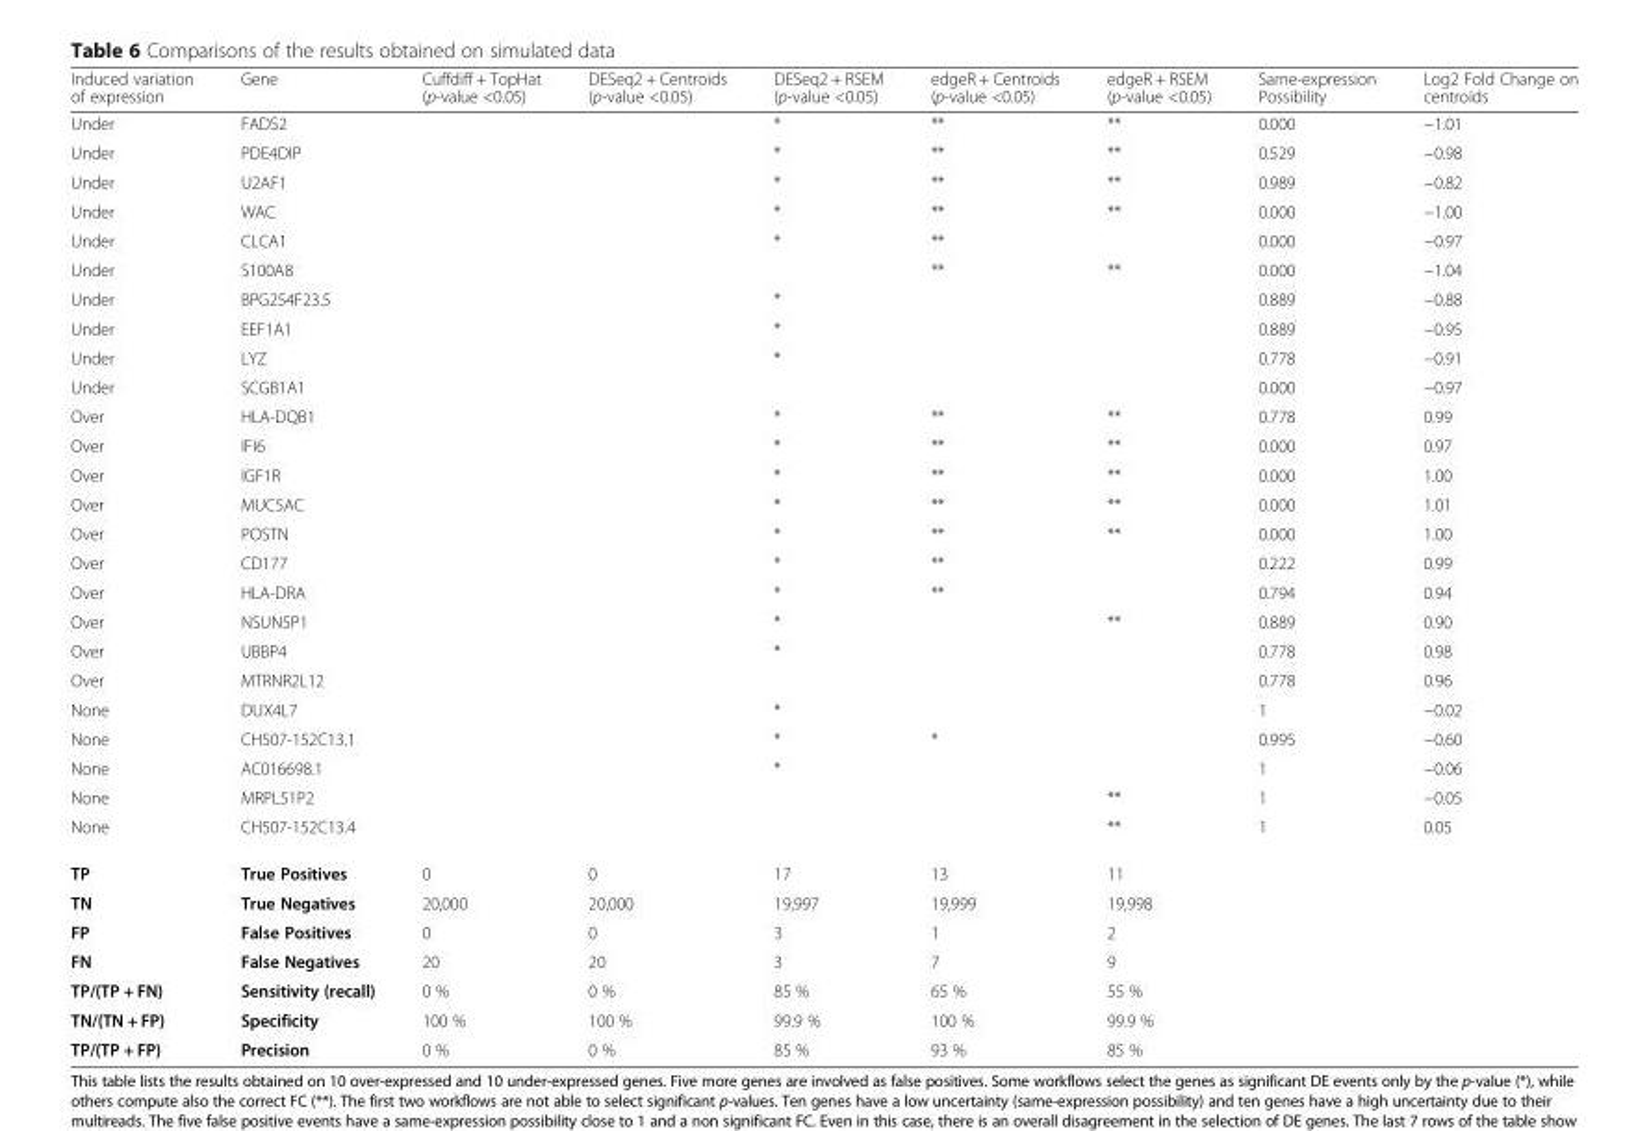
<table><thead><tr><td>Induced variation of expression</td><td>Gene</td><td>Cuffdiff + TopHat (p-value &lt;0.05)</td><td>DESeq2 + Centroids (p-value &lt;0.05)</td><td>DESeq2 + RSEM (p-value &lt;0.05)</td><td>edgeR + Centroids (p-value &lt;0.05)</td><td>edgeR + RSEM (p-value &lt;0.05)</td><td>Same-expression Possibility</td><td>Log2 Fold Change on centroids</td></tr></thead><tbody><tr><td>Under</td><td>FADS2</td><td></td><td></td><td>*</td><td>**</td><td>**</td><td>0.000</td><td>−1.01</td></tr><tr><td>Under</td><td>PDE4DIP</td><td></td><td></td><td>*</td><td>**</td><td>**</td><td>0.529</td><td>−0.98</td></tr><tr><td>Under</td><td>U2AF1</td><td></td><td></td><td>*</td><td>**</td><td>**</td><td>0.989</td><td>−0.82</td></tr><tr><td>Under</td><td>WAC</td><td></td><td></td><td>*</td><td>**</td><td>**</td><td>0.000</td><td>−1.00</td></tr><tr><td>Under</td><td>CLCA1</td><td></td><td></td><td>*</td><td>**</td><td></td><td>0.000</td><td>−0.97</td></tr><tr><td>Under</td><td>S100A8</td><td></td><td></td><td></td><td>**</td><td>**</td><td>0.000</td><td>−1.04</td></tr><tr><td>Under</td><td>BPG254F23.5</td><td></td><td></td><td>*</td><td></td><td></td><td>0.889</td><td>−0.88</td></tr><tr><td>Under</td><td>EEF1A1</td><td></td><td></td><td>*</td><td></td><td></td><td>0.889</td><td>−0.95</td></tr><tr><td>Under</td><td>LYZ</td><td></td><td></td><td>*</td><td></td><td></td><td>0.778</td><td>−0.91</td></tr><tr><td>Under</td><td>SCGB1A1</td><td></td><td></td><td></td><td></td><td></td><td>0.000</td><td>−0.97</td></tr><tr><td>Over</td><td>HLA-DQB1</td><td></td><td></td><td>*</td><td>**</td><td>**</td><td>0.778</td><td>0.99</td></tr><tr><td>Over</td><td>IFI6</td><td></td><td></td><td>*</td><td>**</td><td>**</td><td>0.000</td><td>0.97</td></tr><tr><td>Over</td><td>IGF1R</td><td></td><td></td><td>*</td><td>**</td><td>**</td><td>0.000</td><td>1.00</td></tr><tr><td>Over</td><td>MUC5AC</td><td></td><td></td><td>*</td><td>**</td><td>**</td><td>0.000</td><td>1.01</td></tr><tr><td>Over</td><td>POSTN</td><td></td><td></td><td>*</td><td>**</td><td>**</td><td>0.000</td><td>1.00</td></tr><tr><td>Over</td><td>CD177</td><td></td><td></td><td>*</td><td>**</td><td></td><td>0.222</td><td>0.99</td></tr><tr><td>Over</td><td>HLA-DRA</td><td></td><td></td><td>*</td><td>**</td><td></td><td>0.794</td><td>0.94</td></tr><tr><td>Over</td><td>NSUN5P1</td><td></td><td></td><td>*</td><td></td><td>**</td><td>0.889</td><td>0.90</td></tr><tr><td>Over</td><td>UBBP4</td><td></td><td></td><td>*</td><td></td><td></td><td>0.778</td><td>0.98</td></tr><tr><td>Over</td><td>MTRNR2L12</td><td></td><td></td><td></td><td></td><td></td><td>0.778</td><td>0.96</td></tr><tr><td>None</td><td>DUX4L7</td><td></td><td></td><td>*</td><td></td><td></td><td>1</td><td>−0.02</td></tr><tr><td>None</td><td>CH507-152C13.1</td><td></td><td></td><td>*</td><td>*</td><td></td><td>0.995</td><td>−0.60</td></tr><tr><td>None</td><td>AC016698.1</td><td></td><td></td><td>*</td><td></td><td></td><td>1</td><td>−0.06</td></tr><tr><td>None</td><td>MRPL51P2</td><td></td><td></td><td></td><td></td><td>**</td><td>1</td><td>−0.05</td></tr><tr><td>None</td><td>CH507-152C13.4</td><td></td><td></td><td></td><td></td><td>**</td><td>1</td><td>0.05</td></tr><tr><td>TP</td><td>True Positives</td><td>0</td><td>0</td><td>17</td><td>13</td><td>11</td><td></td><td></td></tr><tr><td>TN</td><td>True Negatives</td><td>20,000</td><td>20,000</td><td>19,997</td><td>19,999</td><td>19,998</td><td></td><td></td></tr><tr><td>FP</td><td>False Positives</td><td>0</td><td>0</td><td>3</td><td>1</td><td>2</td><td></td><td></td></tr><tr><td>FN</td><td>False Negatives</td><td>20</td><td>20</td><td>3</td><td>7</td><td>9</td><td></td><td></td></tr><tr><td>TP/(TP + FN)</td><td>Sensitivity (recall)</td><td>0 %</td><td>0 %</td><td>85 %</td><td>65 %</td><td>55 %</td><td></td><td></td></tr><tr><td>TN/(TN + FP)</td><td>Specificity</td><td>100 %</td><td>100 %</td><td>99.9 %</td><td>100 %</td><td>99.9 %</td><td></td><td></td></tr><tr><td>TP/(TP + FP)</td><td>Precision</td><td>0 %</td><td>0 %</td><td>85 %</td><td>93 %</td><td>85 %</td><td></td><td></td></tr></tbody></table>